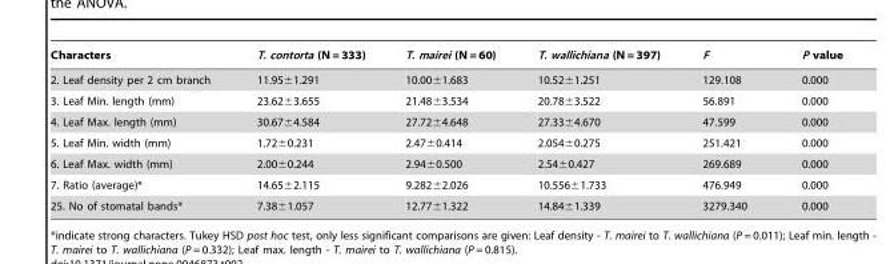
<table><thead><tr><td>Characters</td><td>T. contorta (N = 333)</td><td>T. mairei (N = 60)</td><td>T. wallichiana (N = 397)</td><td>F</td><td>P value</td></tr></thead><tbody><tr><td>2. Leaf density per 2 cm branch</td><td>11.95±1.291</td><td>10.00±1.683</td><td>10.52±1.251</td><td>129.108</td><td>0.000</td></tr><tr><td>3. Leaf Min. length (mm)</td><td>23.62±3.655</td><td>21.48±3.534</td><td>20.78±3.522</td><td>56.891</td><td>0.000</td></tr><tr><td>4. Leaf Max. length (mm)</td><td>30.67±4.584</td><td>27.72±4.648</td><td>27.33±4.670</td><td>47.599</td><td>0.000</td></tr><tr><td>5. Leaf Min. width (mm)</td><td>1.72±0.231</td><td>2.47±0.414</td><td>2.054±0.275</td><td>251.421</td><td>0.000</td></tr><tr><td>6. Leaf Max. width (mm)</td><td>2.00±0.244</td><td>2.94±0.500</td><td>2.54±0.427</td><td>269.689</td><td>0.000</td></tr><tr><td>7. Ratio (average)*</td><td>14.65±2.115</td><td>9.282±2.026</td><td>10.556±1.733</td><td>476.949</td><td>0.000</td></tr><tr><td>25. No of stomatal bands*</td><td>7.38±1.057</td><td>12.77±1.322</td><td>14.84±1.339</td><td>3279.340</td><td>0.000</td></tr></tbody></table>